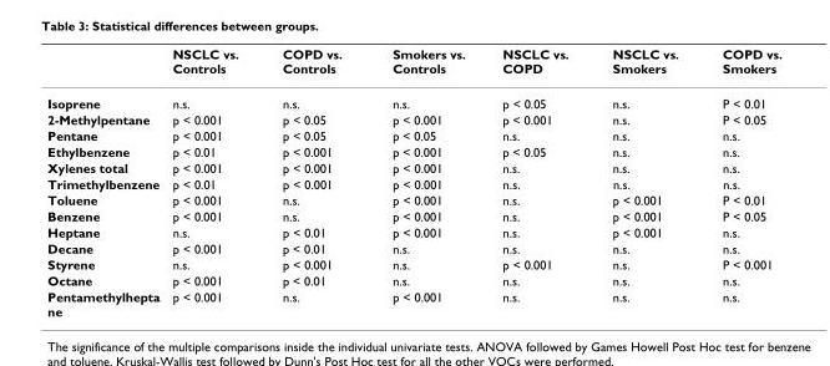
<table><thead><tr><td></td><td>NSCLC vs. Controls</td><td>COPD vs. Controls</td><td>Smokers vs. Controls</td><td>NSCLC vs. COPD</td><td>NSCLC vs. Smokers</td><td>COPD vs. Smokers</td></tr></thead><tbody><tr><td>Isoprene</td><td>n.s.</td><td>n.s.</td><td>n.s.</td><td>p &lt; 0.05</td><td>n.s.</td><td>P &lt; 0.01</td></tr><tr><td>2-Methylpentane</td><td>p &lt; 0.001</td><td>p &lt; 0.05</td><td>p &lt; 0.001</td><td>p &lt; 0.001</td><td>n.s.</td><td>P &lt; 0.05</td></tr><tr><td>Pentane</td><td>p &lt; 0.001</td><td>p &lt; 0.05</td><td>p &lt; 0.05</td><td>n.s.</td><td>n.s.</td><td>n.s.</td></tr><tr><td>Ethylbenzene</td><td>p &lt; 0.01</td><td>p &lt; 0.001</td><td>p &lt; 0.001</td><td>p &lt; 0.05</td><td>n.s.</td><td>n.s.</td></tr><tr><td>Xylenes total</td><td>p &lt; 0.001</td><td>p &lt; 0.001</td><td>p &lt; 0.001</td><td>n.s.</td><td>n.s.</td><td>n.s.</td></tr><tr><td>Trimethylbenzene</td><td>p &lt; 0.01</td><td>p &lt; 0.001</td><td>p &lt; 0.001</td><td>n.s.</td><td>n.s.</td><td>n.s.</td></tr><tr><td>Toluene</td><td>p &lt; 0.001</td><td>n.s.</td><td>p &lt; 0.001</td><td>n.s.</td><td>p &lt; 0.001</td><td>P &lt; 0.01</td></tr><tr><td>Benzene</td><td>p &lt; 0.001</td><td>n.s.</td><td>p &lt; 0.001</td><td>n.s.</td><td>p &lt; 0.001</td><td>P &lt; 0.05</td></tr><tr><td>Heptane</td><td>n.s.</td><td>p &lt; 0.01</td><td>p &lt; 0.001</td><td>n.s.</td><td>p &lt; 0.001</td><td>n.s.</td></tr><tr><td>Decane</td><td>p &lt; 0.001</td><td>p &lt; 0.01</td><td>n.s.</td><td>n.s.</td><td>n.s.</td><td>n.s.</td></tr><tr><td>Styrene</td><td>n.s.</td><td>p &lt; 0.001</td><td>n.s.</td><td>p &lt; 0.001</td><td>n.s.</td><td>P &lt; 0.001</td></tr><tr><td>Octane</td><td>p &lt; 0.001</td><td>p &lt; 0.01</td><td>n.s.</td><td>n.s.</td><td>n.s.</td><td>n.s.</td></tr><tr><td>Pentamethylhepta ne</td><td>p &lt; 0.001</td><td>n.s.</td><td>p &lt; 0.001</td><td>n.s.</td><td>n.s.</td><td>n.s.</td></tr></tbody></table>